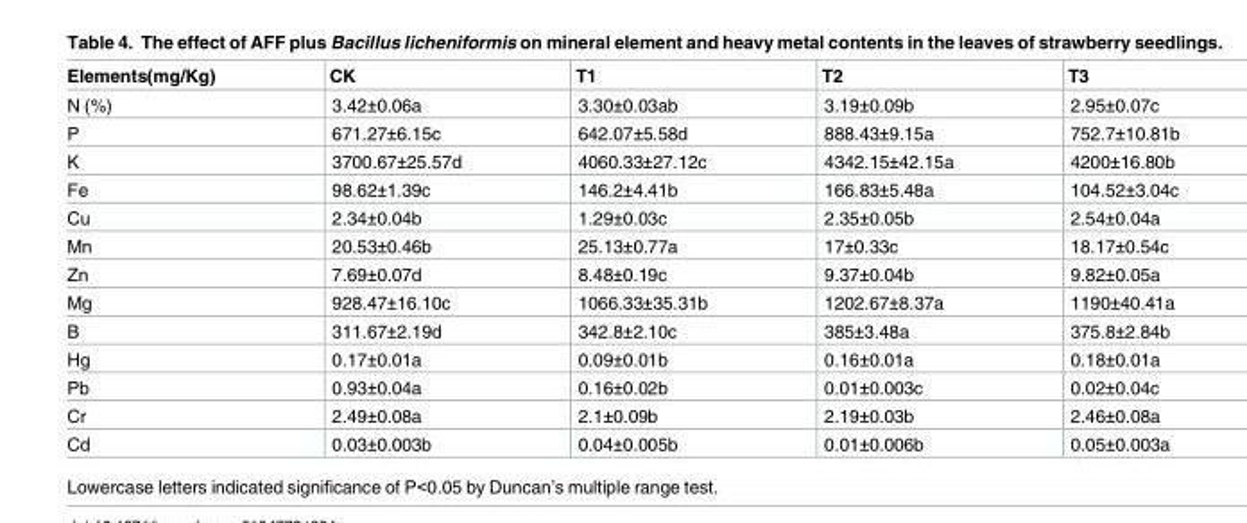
<table><thead><tr><td>Elements(mg/Kg)</td><td>CK</td><td>T1</td><td>T2</td><td>T3</td></tr></thead><tbody><tr><td>N (%)</td><td>3.42±0.06a</td><td>3.30±0.03ab</td><td>3.19±0.09b</td><td>2.95±0.07c</td></tr><tr><td>P</td><td>671.27±6.15c</td><td>642.07±5.58d</td><td>888.43±9.15a</td><td>752.7±10.81b</td></tr><tr><td>K</td><td>3700.67±25.57d</td><td>4060.33±27.12c</td><td>4342.15±42.15a</td><td>4200±16.80b</td></tr><tr><td>Fe</td><td>98.62±1.39c</td><td>146.2±4.41b</td><td>166.83±5.48a</td><td>104.52±3.04c</td></tr><tr><td>Cu</td><td>2.34±0.04b</td><td>1.29±0.03c</td><td>2.35±0.05b</td><td>2.54±0.04a</td></tr><tr><td>Mn</td><td>20.53±0.46b</td><td>25.13±0.77a</td><td>17±0.33c</td><td>18.17±0.54c</td></tr><tr><td>Zn</td><td>7.69±0.07d</td><td>8.48±0.19c</td><td>9.37±0.04b</td><td>9.82±0.05a</td></tr><tr><td>Mg</td><td>928.47±16.10c</td><td>1066.33±35.31b</td><td>1202.67±8.37a</td><td>1190±40.41a</td></tr><tr><td>B</td><td>311.67±2.19d</td><td>342.8±2.10c</td><td>385±3.48a</td><td>375.8±2.84b</td></tr><tr><td>Hg</td><td>0.17±0.01a</td><td>0.09±0.01b</td><td>0.16±0.01a</td><td>0.18±0.01a</td></tr><tr><td>Pb</td><td>0.93±0.04a</td><td>0.16±0.02b</td><td>0.01±0.003c</td><td>0.02±0.04c</td></tr><tr><td>Cr</td><td>2.49±0.08a</td><td>2.1±0.09b</td><td>2.19±0.03b</td><td>2.46±0.08a</td></tr><tr><td>Cd</td><td>0.03±0.003b</td><td>0.04±0.005b</td><td>0.01±0.006b</td><td>0.05±0.003a</td></tr></tbody></table>